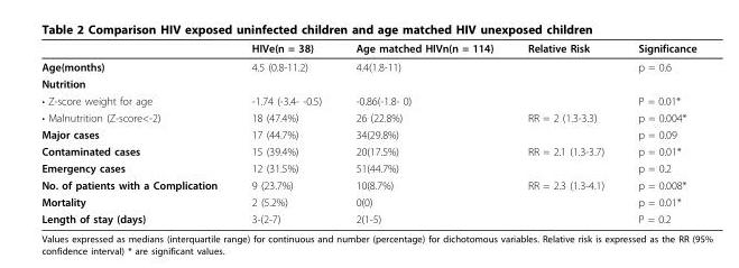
<table><thead><tr><td></td><td>HIVe(n = 38)</td><td>Age matched HIVn(n = 114)</td><td>Relative Risk</td><td>Significance</td></tr></thead><tbody><tr><td>Age(months)</td><td>4.5 (0.8-11.2)</td><td>4.4(1.8-11)</td><td></td><td>p = 0.6</td></tr><tr><td colspan="5">Nutrition</td></tr><tr><td>• Z-score weight for age</td><td>-1.74 (-3.4- -0.5)</td><td>-0.86(-1.8- 0)</td><td></td><td>P = 0.01*</td></tr><tr><td>• Malnutrition (Z-score&lt;-2)</td><td>18 (47.4%)</td><td>26 (22.8%)</td><td>RR = 2 (1.3-3.3)</td><td>p = 0.004*</td></tr><tr><td>Major cases</td><td>17 (44.7%)</td><td>34(29.8%)</td><td></td><td>p = 0.09</td></tr><tr><td>Contaminated cases</td><td>15 (39.4%)</td><td>20(17.5%)</td><td>RR = 2.1 (1.3-3.7)</td><td>p = 0.01*</td></tr><tr><td>Emergency cases</td><td>12 (31.5%)</td><td>51(44.7%)</td><td></td><td>p = 0.2</td></tr><tr><td>No. of patients with a Complication</td><td>9 (23.7%)</td><td>10(8.7%)</td><td>RR = 2.3 (1.3-4.1)</td><td>p = 0.008*</td></tr><tr><td>Mortality</td><td>2 (5.2%)</td><td>0(0)</td><td></td><td>p = 0.01*</td></tr><tr><td>Length of stay (days)</td><td>3-(2-7)</td><td>2(1-5)</td><td></td><td>P = 0.2</td></tr></tbody></table>